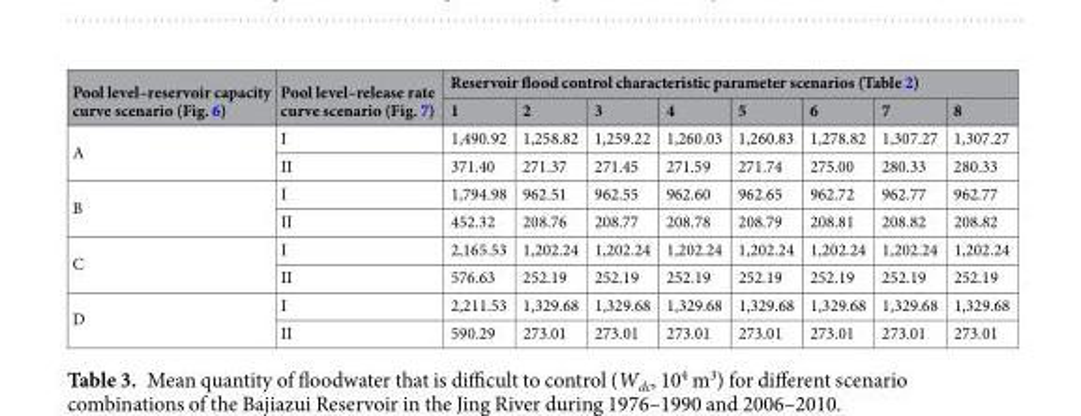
<table><thead><tr><td rowspan="2">Pool level–reservoir capacity curve scenario (Fig. 6)</td><td rowspan="2">Pool level–release rate curve scenario (Fig. 7)</td><td colspan="8">Reservoir flood control characteristic parameter scenarios (Table 2)</td></tr><tr><td>1</td><td>2</td><td>3</td><td>4</td><td>5</td><td>6</td><td>7</td><td>8</td></tr></thead><tbody><tr><td rowspan="2">A</td><td>I</td><td>1,490.92</td><td>1,258.82</td><td>1,259.22</td><td>1,260.03</td><td>1,260.83</td><td>1,278.82</td><td>1,307.27</td><td>1,307.27</td></tr><tr><td>II</td><td>371.40</td><td>271.37</td><td>271.45</td><td>271.59</td><td>271.74</td><td>275.00</td><td>280.33</td><td>280.33</td></tr><tr><td rowspan="2">B</td><td>I</td><td>1,794.98</td><td>962.51</td><td>962.55</td><td>962.60</td><td>962.65</td><td>962.72</td><td>962.77</td><td>962.77</td></tr><tr><td>II</td><td>452.32</td><td>208.76</td><td>208.77</td><td>208.78</td><td>208.79</td><td>208.81</td><td>208.82</td><td>208.82</td></tr><tr><td rowspan="2">C</td><td>I</td><td>2,165.53</td><td>1,202.24</td><td>1,202.24</td><td>1,202.24</td><td>1,202.24</td><td>1,202.24</td><td>1,202.24</td><td>1,202.24</td></tr><tr><td>II</td><td>576.63</td><td>252.19</td><td>252.19</td><td>252.19</td><td>252.19</td><td>252.19</td><td>252.19</td><td>252.19</td></tr><tr><td rowspan="2">D</td><td>I</td><td>2,211.53</td><td>1,329.68</td><td>1,329.68</td><td>1,329.68</td><td>1,329.68</td><td>1,329.68</td><td>1,329.68</td><td>1,329.68</td></tr><tr><td>II</td><td>590.29</td><td>273.01</td><td>273.01</td><td>273.01</td><td>273.01</td><td>273.01</td><td>273.01</td><td>273.01</td></tr></tbody></table>